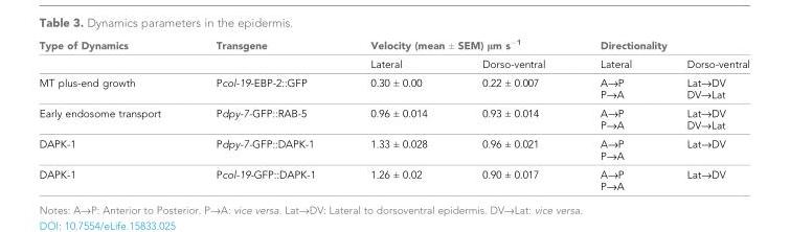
<table><thead><tr><td rowspan="2">Type of Dynamics</td><td rowspan="2">Transgene</td><td colspan="2">Velocity (mean ± SEM) μm s<sup>−1</sup></td><td colspan="2">Directionality</td></tr><tr><td>Lateral</td><td>Dorso-ventral</td><td>Lateral</td><td>Dorso-ventral</td></tr></thead><tbody><tr><td>MT plus-end growth</td><td>Pcol-19-EBP-2::GFP</td><td>0.30 ± 0.00</td><td>0.22 ± 0.007</td><td>AfiP PfiA</td><td>LatfiDV DVfiLat</td></tr><tr><td>Early endosome transport</td><td>Pdpy-7-GFP::RAB-5</td><td>0.96 ± 0.014</td><td>0.93 ± 0.014</td><td>AfiP PfiA</td><td>LatfiDV DVfiLat</td></tr><tr><td>DAPK-1</td><td>Pdpy-7-GFP::DAPK-1</td><td>1.33 ± 0.028</td><td>0.96 ± 0.021</td><td>AfiP PfiA</td><td>LatfiDV</td></tr><tr><td>DAPK-1</td><td>Pcol-19-GFP::DAPK-1</td><td>1.26 ± 0.02</td><td>0.90 ± 0.017</td><td>AfiP PfiA</td><td>LatfiDV</td></tr></tbody></table>